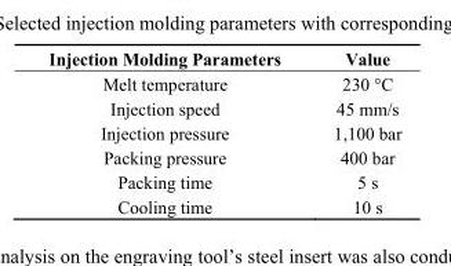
<table><thead><tr><td>Injection Molding Parameters</td><td>Value</td></tr></thead><tbody><tr><td>Melt temperature</td><td>230 °C</td></tr><tr><td>Injection speed</td><td>45 mm/s</td></tr><tr><td>Injection pressure</td><td>1,100 bar</td></tr><tr><td>Packing pressure</td><td>400 bar</td></tr><tr><td>Packing time</td><td>5 s</td></tr><tr><td>Cooling time</td><td>10 s</td></tr></tbody></table>